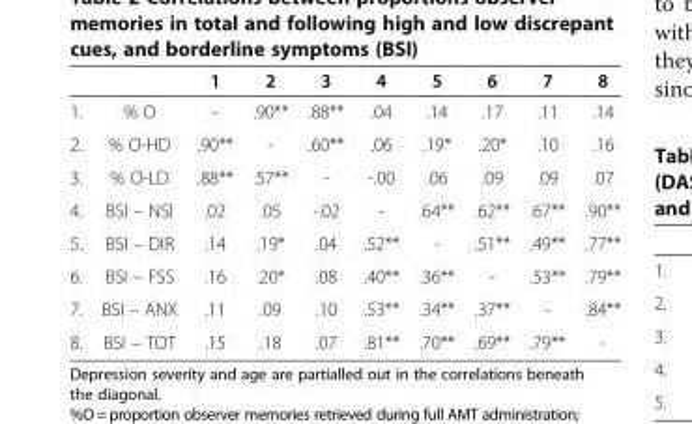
<table><thead><tr><td></td><td></td><td>1</td><td>2</td><td>3</td><td>4</td><td>5</td><td>6</td><td>7</td><td>8</td></tr></thead><tbody><tr><td>1.</td><td>% O</td><td>-</td><td>.90**</td><td>.88**</td><td>.04</td><td>.14</td><td>.17</td><td>.11</td><td>.14</td></tr><tr><td>2.</td><td>% O-HD</td><td>.90**</td><td>-</td><td>.60**</td><td>.06</td><td>.19*</td><td>.20*</td><td>.10</td><td>.16</td></tr><tr><td>3.</td><td>% O-LD</td><td>.88**</td><td>.57**</td><td>-</td><td>-.00</td><td>.06</td><td>.09</td><td>.09</td><td>.07</td></tr><tr><td>4.</td><td>BSI – NSI</td><td>.02</td><td>.05</td><td>-.02</td><td>-</td><td>.64**</td><td>.62**</td><td>.67**</td><td>.90**</td></tr><tr><td>5.</td><td>BSI – DIR</td><td>.14</td><td>.19*</td><td>.04</td><td>.52**</td><td>-</td><td>.51**</td><td>.49**</td><td>.77**</td></tr><tr><td>6.</td><td>BSI – FSS</td><td>.16</td><td>.20*</td><td>.08</td><td>.40**</td><td>.36**</td><td>-</td><td>.53**</td><td>.79**</td></tr><tr><td>7.</td><td>BSI – ANX</td><td>.11</td><td>.09</td><td>.10</td><td>.53**</td><td>.34**</td><td>.37**</td><td>-</td><td>.84**</td></tr><tr><td>8.</td><td>BSI – TOT</td><td>.15</td><td>.18</td><td>.07</td><td>.81**</td><td>.70**</td><td>.69**</td><td>.79**</td><td>-</td></tr></tbody></table>